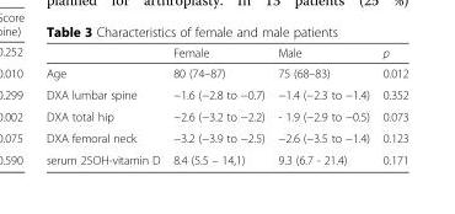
<table><thead><tr><td></td><td>Female</td><td>Male</td><td>p</td></tr></thead><tbody><tr><td>Age</td><td>80 (74–87)</td><td>75 (68–83)</td><td>0.012</td></tr><tr><td>DXA lumbar spine</td><td>−1.6 (−2.8 to −0.7)</td><td>−1.4 (−2.3 to −1.4)</td><td>0.352</td></tr><tr><td>DXA total hip</td><td>−2.6 (−3.2 to −2.2)</td><td>- 1.9 (−2.9 to −0.5)</td><td>0.073</td></tr><tr><td>DXA femoral neck</td><td>−3.2 (−3.9 to −2.5)</td><td>−2.6 (−3.5 to −1.4)</td><td>0.123</td></tr><tr><td>serum 25OH-vitamin D</td><td>8.4 (5.5 – 14,1)</td><td>9.3 (6.7 - 21.4)</td><td>0.171</td></tr></tbody></table>